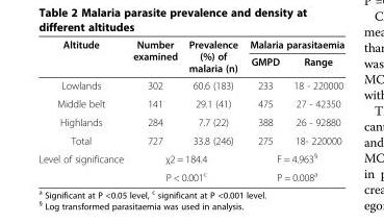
<table><thead><tr><td rowspan="2">Altitude</td><td rowspan="2">Number examined</td><td rowspan="2">Prevalence (%) of malaria (n)</td><td colspan="2">Malaria parasitaemia</td></tr><tr><td>GMPD</td><td>Range</td></tr></thead><tbody><tr><td>Lowlands</td><td>302</td><td>60.6 (183)</td><td>233</td><td>18 - 220000</td></tr><tr><td>Middle belt</td><td>141</td><td>29.1 (41)</td><td>475</td><td>27 - 42350</td></tr><tr><td>Highlands</td><td>284</td><td>7.7 (22)</td><td>388</td><td>26 - 92880</td></tr><tr><td>Total</td><td>727</td><td>33.8 (246)</td><td>275</td><td>18- 220000</td></tr><tr><td rowspan="2">Level of significance</td><td colspan="2">χ2 = 184.4</td><td colspan="2">F = 4.963<sup>§</sup></td></tr><tr><td colspan="2">P &lt; 0.001<sup>c</sup></td><td colspan="2">P = 0.008<sup>a</sup></td></tr></tbody></table>